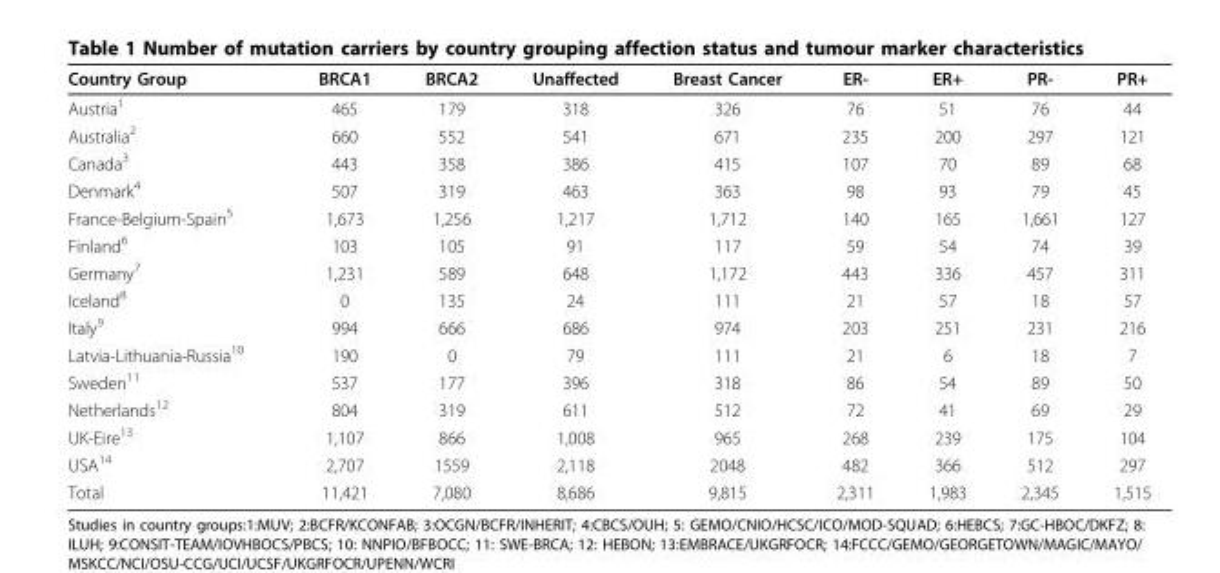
<table><thead><tr><td>Country Group</td><td>BRCA1</td><td>BRCA2</td><td>Unaffected</td><td>Breast Cancer</td><td>ER-</td><td>ER+</td><td>PR-</td><td>PR+</td></tr></thead><tbody><tr><td>Austria<sup>1</sup></td><td>465</td><td>179</td><td>318</td><td>326</td><td>76</td><td>51</td><td>76</td><td>44</td></tr><tr><td>Australia<sup>2</sup></td><td>660</td><td>552</td><td>541</td><td>671</td><td>235</td><td>200</td><td>297</td><td>121</td></tr><tr><td>Canada<sup>3</sup></td><td>443</td><td>358</td><td>386</td><td>415</td><td>107</td><td>70</td><td>89</td><td>68</td></tr><tr><td>Denmark<sup>4</sup></td><td>507</td><td>319</td><td>463</td><td>363</td><td>98</td><td>93</td><td>79</td><td>45</td></tr><tr><td>France-Belgium-Spain<sup>5</sup></td><td>1,673</td><td>1,256</td><td>1,217</td><td>1,712</td><td>140</td><td>165</td><td>1,661</td><td>127</td></tr><tr><td>Finland<sup>6</sup></td><td>103</td><td>105</td><td>91</td><td>117</td><td>59</td><td>54</td><td>74</td><td>39</td></tr><tr><td>Germany<sup>7</sup></td><td>1,231</td><td>589</td><td>648</td><td>1,172</td><td>443</td><td>336</td><td>457</td><td>311</td></tr><tr><td>Iceland<sup>8</sup></td><td>0</td><td>135</td><td>24</td><td>111</td><td>21</td><td>57</td><td>18</td><td>57</td></tr><tr><td>Italy<sup>9</sup></td><td>994</td><td>666</td><td>686</td><td>974</td><td>203</td><td>251</td><td>231</td><td>216</td></tr><tr><td>Latvia-Lithuania-Russia<sup>10</sup></td><td>190</td><td>0</td><td>79</td><td>111</td><td>21</td><td>6</td><td>18</td><td>7</td></tr><tr><td>Sweden<sup>11</sup></td><td>537</td><td>177</td><td>396</td><td>318</td><td>86</td><td>54</td><td>89</td><td>50</td></tr><tr><td>Netherlands<sup>12</sup></td><td>804</td><td>319</td><td>611</td><td>512</td><td>72</td><td>41</td><td>69</td><td>29</td></tr><tr><td>UK-Eire<sup>13</sup></td><td>1,107</td><td>866</td><td>1,008</td><td>965</td><td>268</td><td>239</td><td>175</td><td>104</td></tr><tr><td>USA<sup>14</sup></td><td>2,707</td><td>1559</td><td>2,118</td><td>2048</td><td>482</td><td>366</td><td>512</td><td>297</td></tr><tr><td>Total</td><td>11,421</td><td>7,080</td><td>8,686</td><td>9,815</td><td>2,311</td><td>1,983</td><td>2,345</td><td>1,515</td></tr></tbody></table>